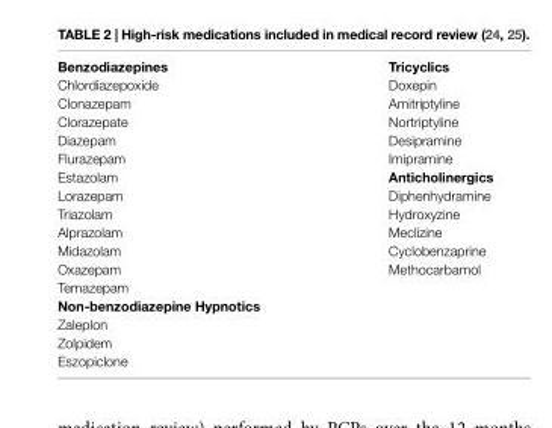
<table><tbody><tr><td>Benzodiazepines</td><td>Tricyclics</td></tr><tr><td>Chlordiazepoxide</td><td>Doxepin</td></tr><tr><td>Clonazepam</td><td>Amitriptyline</td></tr><tr><td>Clorazepate</td><td>Nortriptyline</td></tr><tr><td>Diazepam</td><td>Desipramine</td></tr><tr><td>Flurazepam</td><td>Imipramine</td></tr><tr><td>Estazolam</td><td>anticholinergics</td></tr><tr><td>Lorazepam</td><td>Diphenhydramine</td></tr><tr><td>Triazolam</td><td>Hydroxyzine</td></tr><tr><td>Alprazolam</td><td>Meclizine</td></tr><tr><td>Midazolam</td><td>Cyclobenzaprine</td></tr><tr><td>Oxazepam</td><td>Methocarbamol</td></tr><tr><td colspan="2">Temazepam</td></tr><tr><td colspan="2">non-benzodiazepine hypnotics</td></tr><tr><td colspan="2">Zaleplon</td></tr><tr><td colspan="2">Zolpidem</td></tr><tr><td>Eszopiclone</td><td></td></tr></tbody></table>